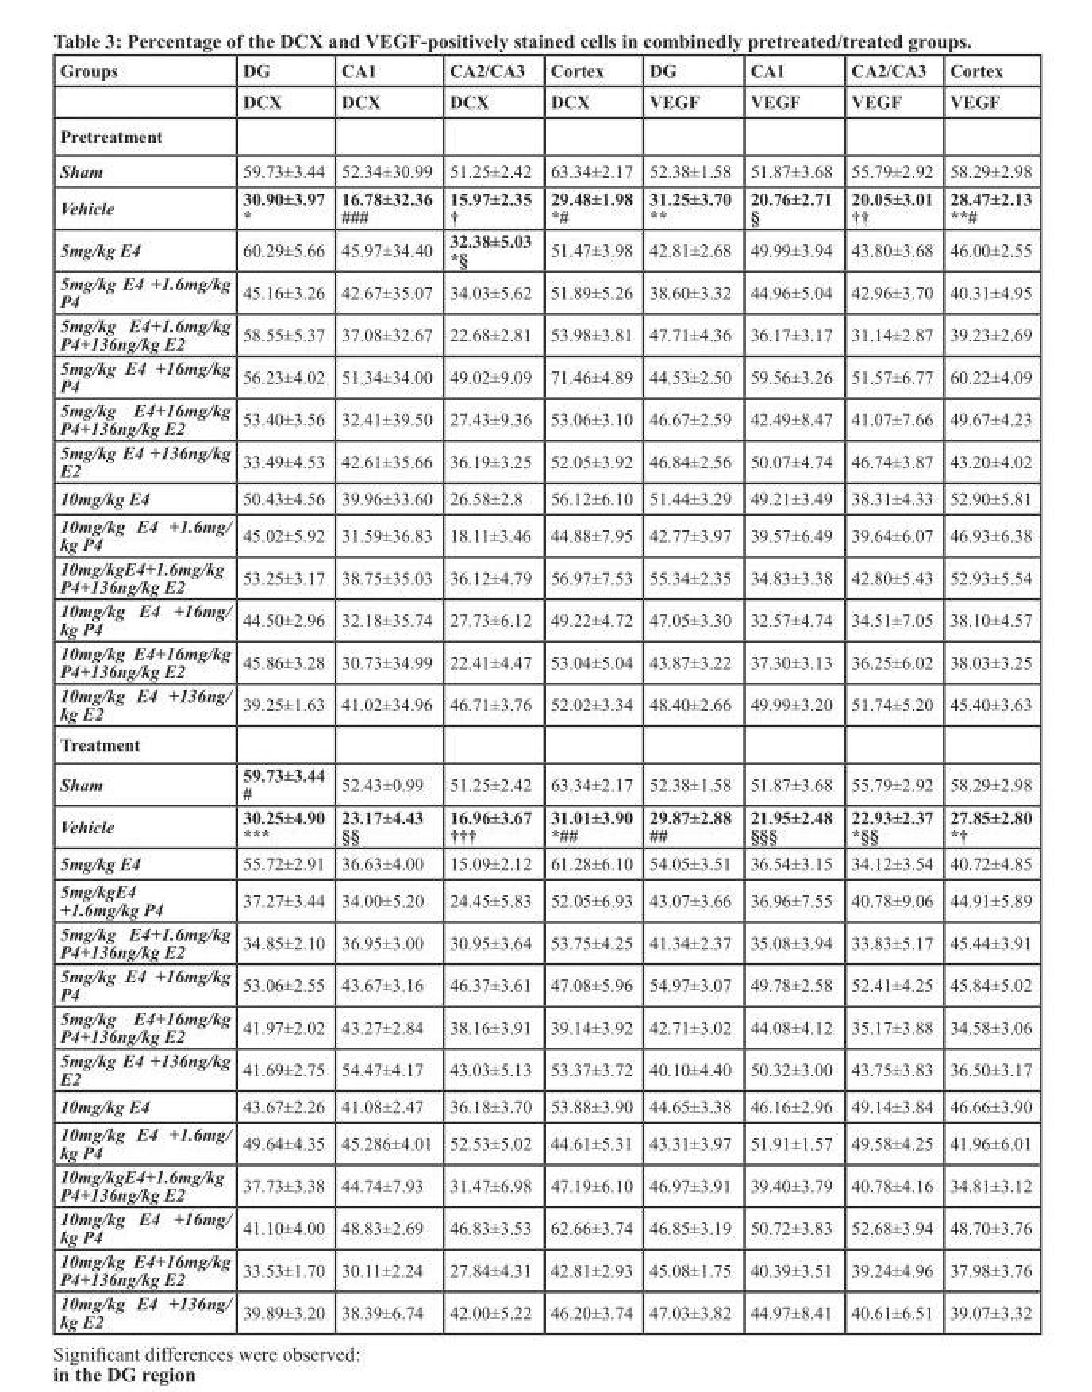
<table><thead><tr><td rowspan="2">Groups</td><td rowspan="2">dG dcX</td><td rowspan="2">cA1 dcX</td><td rowspan="2">cA2/cA3 dcX</td><td rowspan="2">cortex dcX</td><td rowspan="2">dG VeGF</td><td rowspan="2">cA1 VeGF</td><td rowspan="2">cA2/cA3 VeGF</td><td rowspan="2">cortex VeGF</td></tr><tr></tr></thead><tbody><tr><td colspan="9">Pretreatment</td></tr><tr><td>Sham</td><td>59.73±3.44</td><td>52.34±30.99</td><td>51.25±2.42</td><td>63.34±2.17</td><td>52.38±1.58</td><td>51.87±3.68</td><td>55.79±2.92</td><td>58.29±2.98</td></tr><tr><td>Vehicle</td><td>30.90±3.97 *</td><td>16.78±32.36 ###</td><td>15.97±2.35 †</td><td>29.48±1.98 *#</td><td>31.25±3.70 **</td><td>20.76±2.71 §</td><td>20.05±3.01 ††</td><td>28.47±2.13 **#</td></tr><tr><td>5mg/kg E4</td><td>60.29±5.66</td><td>45.97±34.40</td><td>32.38±5.03 *§</td><td>51.47±3.98</td><td>42.81±2.68</td><td>49.99±3.94</td><td>43.80±3.68</td><td>46.00±2.55</td></tr><tr><td>5mg/kg E4 +1.6mg/kg P4</td><td>45.16±3.26</td><td>42.67±35.07</td><td>34.03±5.62</td><td>51.89±5.26</td><td>38.60±3.32</td><td>44.96±5.04</td><td>42.96±3.70</td><td>40.31±4.95</td></tr><tr><td>5mg/kg E4+1.6mg/kg P4+136ng/kg E2</td><td>58.55±5.37</td><td>37.08±32.67</td><td>22.68±2.81</td><td>53.98±3.81</td><td>47.71±4.36</td><td>36.17±3.17</td><td>31.14±2.87</td><td>39.23±2.69</td></tr><tr><td>5mg/kg E4 +16mg/kg P4</td><td>56.23±4.02</td><td>51.34±34.00</td><td>49.02±9.09</td><td>71.46±4.89</td><td>44.53±2.50</td><td>59.56±3.26</td><td>51.57±6.77</td><td>60.22±4.09</td></tr><tr><td>5mg/kg E4+16mg/kg P4+136ng/kg E2</td><td>53.40±3.56</td><td>32.41±39.50</td><td>27.43±9.36</td><td>53.06±3.10</td><td>46.67±2.59</td><td>42.49±8.47</td><td>41.07±7.66</td><td>49.67±4.23</td></tr><tr><td>5mg/kg E4 +136ng/kg E2</td><td>33.49±4.53</td><td>42.61±35.66</td><td>36.19±3.25</td><td>52.05±3.92</td><td>46.84±2.56</td><td>50.07±4.74</td><td>46.74±3.87</td><td>43.20±4.02</td></tr><tr><td>10mg/kg E4</td><td>50.43±4.56</td><td>39.96±33.60</td><td>26.58±2.8</td><td>56.12±6.10</td><td>51.44±3.29</td><td>49.21±3.49</td><td>38.31±4.33</td><td>52.90±5.81</td></tr><tr><td>10mg/kg E4 +1.6mg/ kg P4</td><td>45.02±5.92</td><td>31.59±36.83</td><td>18.11±3.46</td><td>44.88±7.95</td><td>42.77±3.97</td><td>39.57±6.49</td><td>39.64±6.07</td><td>46.93±6.38</td></tr><tr><td>10mg/kgE4+1.6mg/kg P4+136ng/kg E2</td><td>53.25±3.17</td><td>38.75±35.03</td><td>36.12±4.79</td><td>56.97±7.53</td><td>55.34±2.35</td><td>34.83±3.38</td><td>42.80±5.43</td><td>52.93±5.54</td></tr><tr><td>10mg/kg E4 +16mg/ kg P4</td><td>44.50±2.96</td><td>32.18±35.74</td><td>27.73±6.12</td><td>49.22±4.72</td><td>47.05±3.30</td><td>32.57±4.74</td><td>34.51±7.05</td><td>38.10±4.57</td></tr><tr><td>10mg/kg E4+16mg/kg P4+136ng/kg E2</td><td>45.86±3.28</td><td>30.73±34.99</td><td>22.41±4.47</td><td>53.04±5.04</td><td>43.87±3.22</td><td>37.30±3.13</td><td>36.25±6.02</td><td>38.03±3.25</td></tr><tr><td>10mg/kg E4 +136ng/ kg E2</td><td>39.25±1.63</td><td>41.02±34.96</td><td>46.71±3.76</td><td>52.02±3.34</td><td>48.40±2.66</td><td>49.99±3.20</td><td>51.74±5.20</td><td>45.40±3.63</td></tr><tr><td colspan="9">treatment</td></tr><tr><td>Sham</td><td>59.73±3.44 #</td><td>52.43±0.99</td><td>51.25±2.42</td><td>63.34±2.17</td><td>52.38±1.58</td><td>51.87±3.68</td><td>55.79±2.92</td><td>58.29±2.98</td></tr><tr><td>Vehicle</td><td>30.25±4.90 ***</td><td>23.17±4.43 §§</td><td>16.96±3.67 †††</td><td>31.01±3.90 *##</td><td>29.87±2.88 ##</td><td>21.95±2.48 §§§</td><td>22.93±2.37 *§§</td><td>27.85±2.80 *†</td></tr><tr><td>5mg/kg E4</td><td>55.72±2.91</td><td>36.63±4.00</td><td>15.09±2.12</td><td>61.28±6.10</td><td>54.05±3.51</td><td>36.54±3.15</td><td>34.12±3.54</td><td>40.72±4.85</td></tr><tr><td>5mg/kgE4 +1.6mg/kg P4</td><td>37.27±3.44</td><td>34.00±5.20</td><td>24.45±5.83</td><td>52.05±6.93</td><td>43.07±3.66</td><td>36.96±7.55</td><td>40.78±9.06</td><td>44.91±5.89</td></tr><tr><td>5mg/kg E4+1.6mg/kg P4+136ng/kg E2</td><td>34.85±2.10</td><td>36.95±3.00</td><td>30.95±3.64</td><td>53.75±4.25</td><td>41.34±2.37</td><td>35.08±3.94</td><td>33.83±5.17</td><td>45.44±3.91</td></tr><tr><td>5mg/kg E4 +16mg/kg P4</td><td>53.06±2.55</td><td>43.67±3.16</td><td>46.37±3.61</td><td>47.08±5.96</td><td>54.97±3.07</td><td>49.78±2.58</td><td>52.41±4.25</td><td>45.84±5.02</td></tr><tr><td>5mg/kg E4+16mg/kg P4+136ng/kg E2</td><td>41.97±2.02</td><td>43.27±2.84</td><td>38.16±3.91</td><td>39.14±3.92</td><td>42.71±3.02</td><td>44.08±4.12</td><td>35.17±3.88</td><td>34.58±3.06</td></tr><tr><td>5mg/kg E4 +136ng/kg E2</td><td>41.69±2.75</td><td>54.47±4.17</td><td>43.03±5.13</td><td>53.37±3.72</td><td>40.10±4.40</td><td>50.32±3.00</td><td>43.75±3.83</td><td>36.50±3.17</td></tr><tr><td>10mg/kg E4</td><td>43.67±2.26</td><td>41.08±2.47</td><td>36.18±3.70</td><td>53.88±3.90</td><td>44.65±3.38</td><td>46.16±2.96</td><td>49.14±3.84</td><td>46.66±3.90</td></tr><tr><td>10mg/kg E4 +1.6mg/ kg P4</td><td>49.64±4.35</td><td>45.286±4.01</td><td>52.53±5.02</td><td>44.61±5.31</td><td>43.31±3.97</td><td>51.91±1.57</td><td>49.58±4.25</td><td>41.96±6.01</td></tr><tr><td>10mg/kgE4+1.6mg/kg P4+136ng/kg E2</td><td>37.73±3.38</td><td>44.74±7.93</td><td>31.47±6.98</td><td>47.19±6.10</td><td>46.97±3.91</td><td>39.40±3.79</td><td>40.78±4.16</td><td>34.81±3.12</td></tr><tr><td>10mg/kg E4 +16mg/ kg P4</td><td>41.10±4.00</td><td>48.83±2.69</td><td>46.83±3.53</td><td>62.66±3.74</td><td>46.85±3.19</td><td>50.72±3.83</td><td>52.68±3.94</td><td>48.70±3.76</td></tr><tr><td>10mg/kg E4+16mg/kg P4+136ng/kg E2</td><td>33.53±1.70</td><td>30.11±2.24</td><td>27.84±4.31</td><td>42.81±2.93</td><td>45.08±1.75</td><td>40.39±3.51</td><td>39.24±4.96</td><td>37.98±3.76</td></tr><tr><td>10mg/kg E4 +136ng/ kg E2</td><td>39.89±3.20</td><td>38.39±6.74</td><td>42.00±5.22</td><td>46.20±3.74</td><td>47.03±3.82</td><td>44.97±8.41</td><td>40.61±6.51</td><td>39.07±3.32</td></tr></tbody></table>